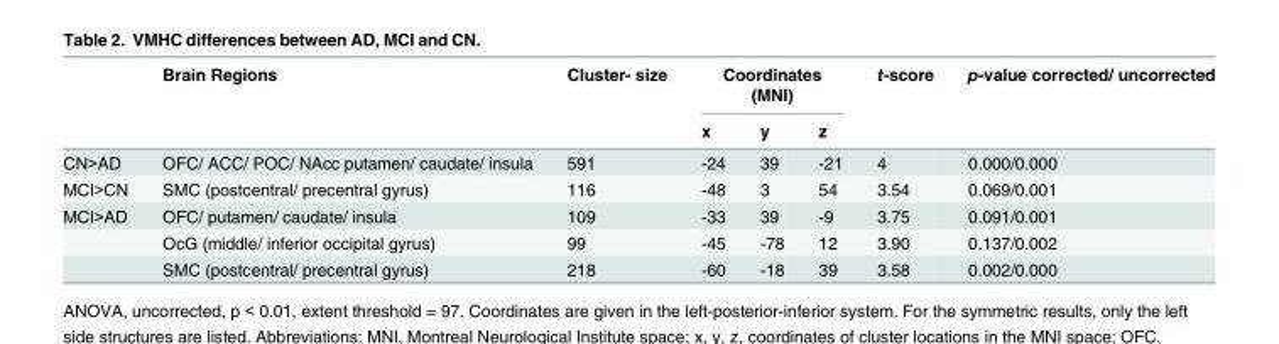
<table><thead><tr><td rowspan="2"></td><td rowspan="2">Brain Regions</td><td rowspan="2">Cluster- size</td><td colspan="3">Coordinates (MNI)</td><td rowspan="2">t-score</td><td rowspan="2">p-value corrected/ uncorrected</td></tr><tr><td>x</td><td>y</td><td>z</td></tr></thead><tbody><tr><td>CN&gt;AD</td><td>OFC/ ACC/ POC/ NAcc putamen/ caudate/ insula</td><td>591</td><td>-24</td><td>39</td><td>-21</td><td>4</td><td>0.000/0.000</td></tr><tr><td>MCI&gt;CN</td><td>SMC (postcentral/ precentral gyrus)</td><td>116</td><td>-48</td><td>3</td><td>54</td><td>3.54</td><td>0.069/0.001</td></tr><tr><td rowspan="3">MCI&gt;AD</td><td>OFC/ putamen/ caudate/ insula</td><td>109</td><td>-33</td><td>39</td><td>-9</td><td>3.75</td><td>0.091/0.001</td></tr><tr><td>OcG (middle/ inferior occipital gyrus)</td><td>99</td><td>-45</td><td>-78</td><td>12</td><td>3.90</td><td>0.137/0.002</td></tr><tr><td>SMC (postcentral/ precentral gyrus)</td><td>218</td><td>-60</td><td>-18</td><td>39</td><td>3.58</td><td>0.002/0.000</td></tr></tbody></table>